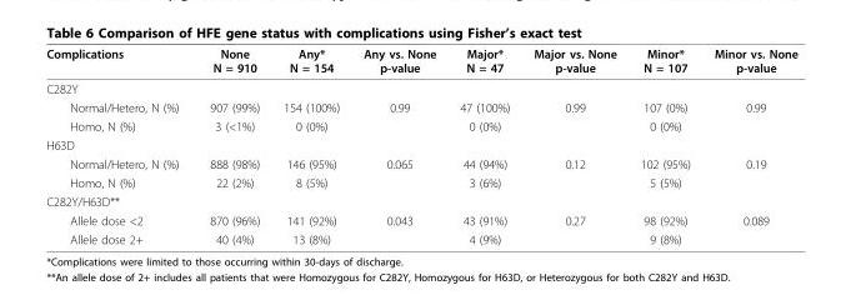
<table><thead><tr><td>Complications</td><td>None N = 910</td><td>Any* N = 154</td><td>Any vs. None p-value</td><td>Major* N = 47</td><td>Major vs. None p-value</td><td>Minor* N = 107</td><td>Minor vs. None p-value</td></tr></thead><tbody><tr><td colspan="8">C282Y</td></tr><tr><td>Normal/Hetero, N (%)</td><td>907 (99%)</td><td>154 (100%)</td><td>0.99</td><td>47 (100%)</td><td>0.99</td><td>107 (0%)</td><td>0.99</td></tr><tr><td>Homo, N (%)</td><td>3 (&lt;1%)</td><td>0 (0%)</td><td></td><td>0 (0%)</td><td></td><td>0 (0%)</td><td></td></tr><tr><td colspan="8">H63D</td></tr><tr><td>Normal/Hetero, N (%)</td><td>888 (98%)</td><td>146 (95%)</td><td>0.065</td><td>44 (94%)</td><td>0.12</td><td>102 (95%)</td><td>0.19</td></tr><tr><td>Homo, N (%)</td><td>22 (2%)</td><td>8 (5%)</td><td></td><td>3 (6%)</td><td></td><td>5 (5%)</td><td></td></tr><tr><td colspan="8">C282Y/H63D**</td></tr><tr><td>Allele dose &lt;2</td><td>870 (96%)</td><td>141 (92%)</td><td>0.043</td><td>43 (91%)</td><td>0.27</td><td>98 (92%)</td><td>0.089</td></tr><tr><td>Allele dose 2+</td><td>40 (4%)</td><td>13 (8%)</td><td></td><td>4 (9%)</td><td></td><td>9 (8%)</td><td></td></tr></tbody></table>